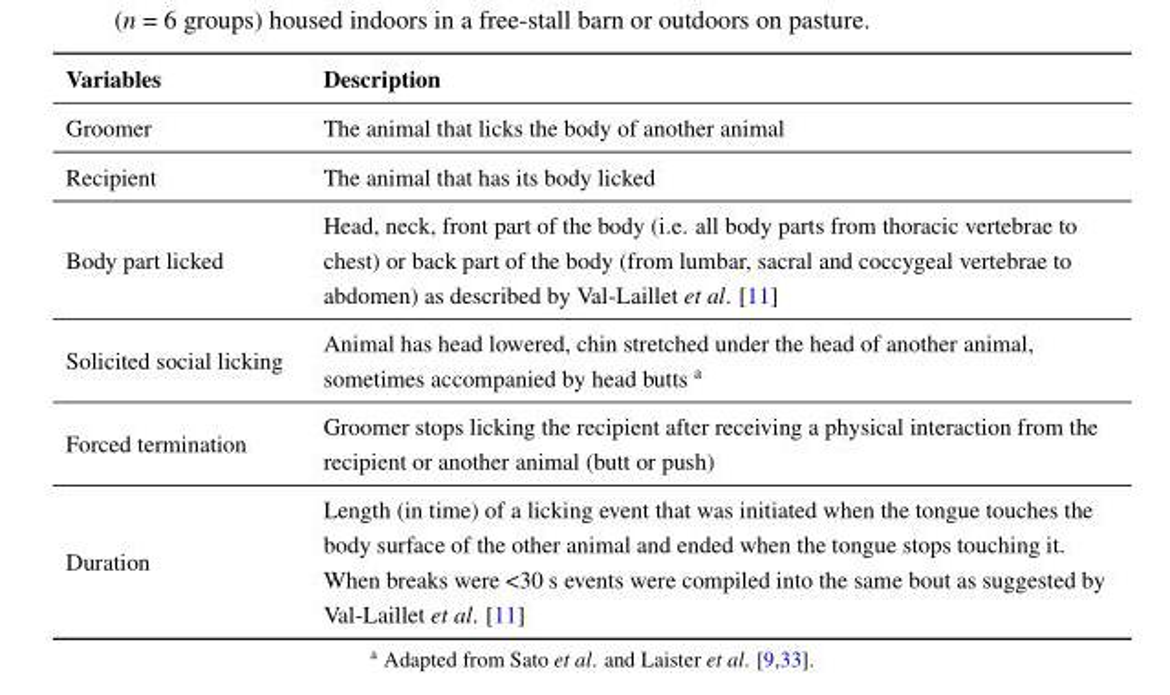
<table><thead><tr><td>Variables</td><td>Description</td></tr></thead><tbody><tr><td>Groomer</td><td>The animal that licks the body of another animal</td></tr><tr><td>Recipient</td><td>The animal that has its body licked</td></tr><tr><td>Body part licked</td><td>Head, neck, front part of the body (i.e. all body parts from thoracic vertebrae to chest) or back part of the body (from lumbar, sacral and coccygeal vertebrae to abdomen) as described by Val-Laillet et al. [11]</td></tr><tr><td>Solicited social licking</td><td>Animal has head lowered, chin stretched under the head of another animal, sometimes accompanied by head butts <sup>a</sup></td></tr><tr><td>Forced termination</td><td>Groomer stops licking the recipient after receiving a physical interaction from the recipient or another animal (butt or push)</td></tr><tr><td>Duration</td><td>Length (in time) of a licking event that was initiated when the tongue touches the body surface of the other animal and ended when the tongue stops touching it. When breaks were &lt;30 s events were compiled into the same bout as suggested by Val-Laillet et al. [11]</td></tr></tbody></table>